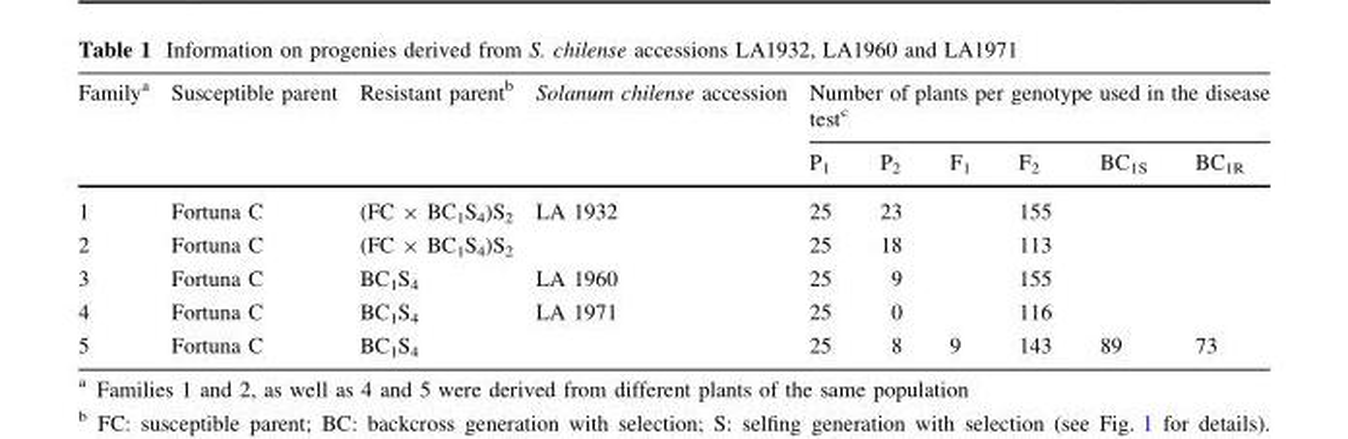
<table><thead><tr><td rowspan="2">Family<sup>a</sup></td><td rowspan="2">Susceptible parent</td><td rowspan="2">Resistant parent<sup>b</sup></td><td rowspan="2">Solanum chilense accession</td><td colspan="6">Number of plants per genotype used in the disease test<sup>c</sup></td></tr><tr><td>P<sub>1</sub></td><td>P<sub>2</sub></td><td>F<sub>1</sub></td><td>F<sub>2</sub></td><td>BC<sub>1S</sub></td><td>BC<sub>1R</sub></td></tr></thead><tbody><tr><td>1</td><td>Fortuna C</td><td>(FC × BC<sub>1</sub>S<sub>4</sub>)S<sub>2</sub></td><td rowspan="2">LA 1932</td><td>25</td><td>23</td><td></td><td>155</td><td></td><td></td></tr><tr><td>2</td><td>Fortuna C</td><td>(FC × BC<sub>1</sub>S<sub>4</sub>)S<sub>2</sub></td><td>25</td><td>18</td><td></td><td>113</td><td></td><td></td></tr><tr><td>3</td><td>Fortuna C</td><td>BC<sub>1</sub>S<sub>4</sub></td><td>LA 1960</td><td>25</td><td>9</td><td></td><td>155</td><td></td><td></td></tr><tr><td>4</td><td>Fortuna C</td><td>BC<sub>1</sub>S<sub>4</sub></td><td rowspan="2">LA 1971</td><td>25</td><td>0</td><td></td><td>116</td><td></td><td></td></tr><tr><td>5</td><td>Fortuna C</td><td>BC<sub>1</sub>S<sub>4</sub></td><td>25</td><td>8</td><td>9</td><td>143</td><td>89</td><td>73</td></tr></tbody></table>